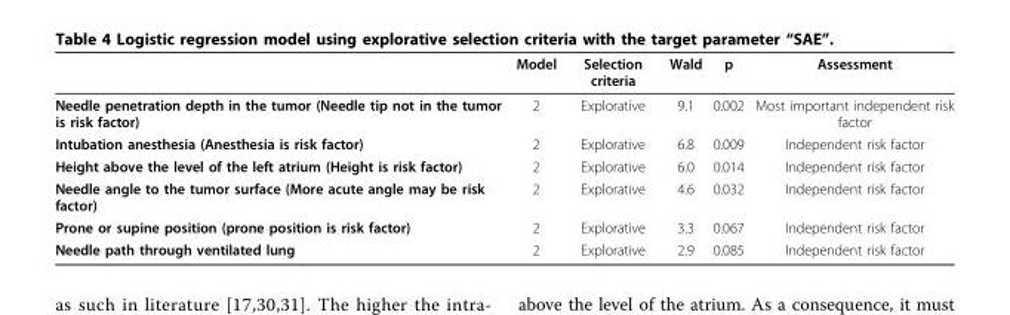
<table><thead><tr><td></td><td>Model</td><td>Selection criteria</td><td>Wald</td><td>p</td><td>Assessment</td></tr></thead><tbody><tr><td>Needle penetration depth in the tumor (Needle tip not in the tumor is risk factor)</td><td>2</td><td>Explorative</td><td>9.1</td><td>0.002</td><td>Most important independent risk factor</td></tr><tr><td>Intubation anesthesia (Anesthesia is risk factor)</td><td>2</td><td>Explorative</td><td>6.8</td><td>0.009</td><td>Independent risk factor</td></tr><tr><td>Height above the level of the left atrium (Height is risk factor)</td><td>2</td><td>Explorative</td><td>6.0</td><td>0.014</td><td>Independent risk factor</td></tr><tr><td>Needle angle to the tumor surface (More acute angle may be risk factor)</td><td>2</td><td>Explorative</td><td>4.6</td><td>0.032</td><td>Independent risk factor</td></tr><tr><td>Prone or supine position (prone position is risk factor)</td><td>2</td><td>Explorative</td><td>3.3</td><td>0.067</td><td>Independent risk factor</td></tr><tr><td>Needle path through ventilated lung</td><td>2</td><td>Explorative</td><td>2.9</td><td>0.085</td><td>Independent risk factor</td></tr></tbody></table>